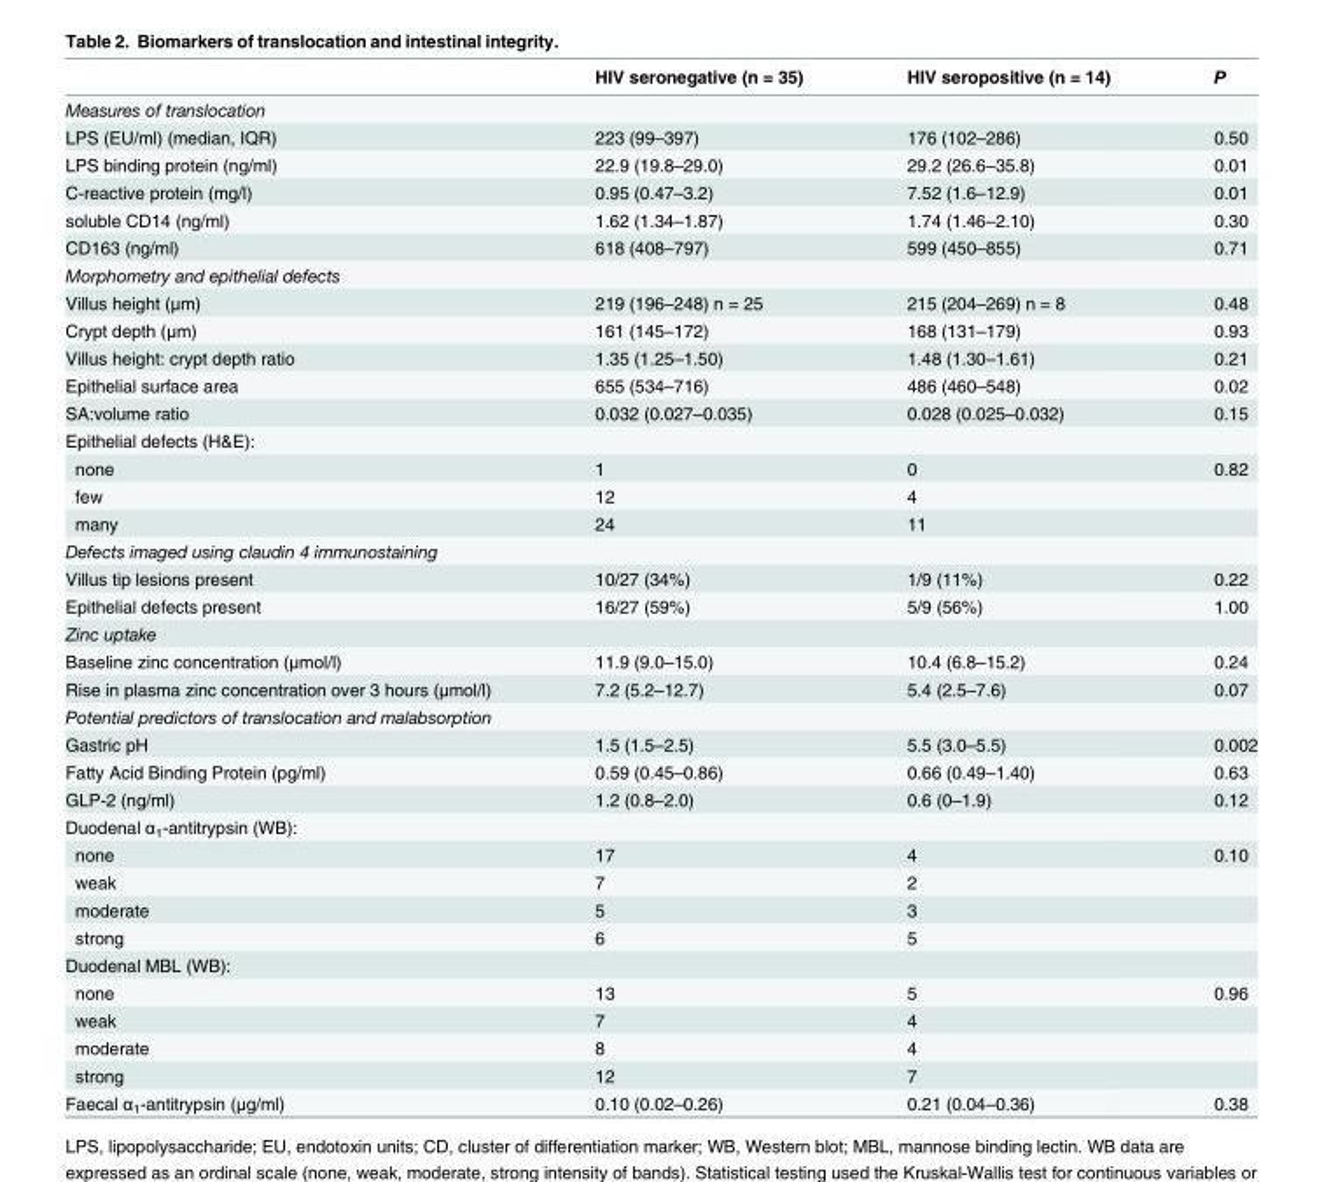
<table><thead><tr><td></td><td>HIV seronegative (n = 35)</td><td>HIV seropositive (n = 14)</td><td>P</td></tr></thead><tbody><tr><td colspan="4">Measures of translocation</td></tr><tr><td>LPS (EU/ml) (median, IQR)</td><td>223 (99–397)</td><td>176 (102–286)</td><td>0.50</td></tr><tr><td>LPS binding protein (ng/ml)</td><td>22.9 (19.8–29.0)</td><td>29.2 (26.6–35.8)</td><td>0.01</td></tr><tr><td>C-reactive protein (mg/l)</td><td>0.95 (0.47–3.2)</td><td>7.52 (1.6–12.9)</td><td>0.01</td></tr><tr><td>soluble CD14 (ng/ml)</td><td>1.62 (1.34–1.87)</td><td>1.74 (1.46–2.10)</td><td>0.30</td></tr><tr><td>CD163 (ng/ml)</td><td>618 (408–797)</td><td>599 (450–855)</td><td>0.71</td></tr><tr><td colspan="4">Morphometry and epithelial defects</td></tr><tr><td>Villus height (μm)</td><td>219 (196–248) n = 25</td><td>215 (204–269) n = 8</td><td>0.48</td></tr><tr><td>Crypt depth (μm)</td><td>161 (145–172)</td><td>168 (131–179)</td><td>0.93</td></tr><tr><td>Villus height: crypt depth ratio</td><td>1.35 (1.25–1.50)</td><td>1.48 (1.30–1.61)</td><td>0.21</td></tr><tr><td>Epithelial surface area</td><td>655 (534–716)</td><td>486 (460–548)</td><td>0.02</td></tr><tr><td>SA:volume ratio</td><td>0.032 (0.027–0.035)</td><td>0.028 (0.025–0.032)</td><td>0.15</td></tr><tr><td colspan="4">Epithelial defects (H&amp;E):</td></tr><tr><td>none</td><td>1</td><td>0</td><td>0.82</td></tr><tr><td>few</td><td>12</td><td>4</td><td></td></tr><tr><td>many</td><td>24</td><td>11</td><td></td></tr><tr><td colspan="4">Defects imaged using claudin 4 immunostaining</td></tr><tr><td>Villus tip lesions present</td><td>10/27 (34%)</td><td>1/9 (11%)</td><td>0.22</td></tr><tr><td>Epithelial defects present</td><td>16/27 (59%)</td><td>5/9 (56%)</td><td>1.00</td></tr><tr><td colspan="4">Zinc uptake</td></tr><tr><td>Baseline zinc concentration (μmol/l)</td><td>11.9 (9.0–15.0)</td><td>10.4 (6.8–15.2)</td><td>0.24</td></tr><tr><td>Rise in plasma zinc concentration over 3 hours (μmol/l)</td><td>7.2 (5.2–12.7)</td><td>5.4 (2.5–7.6)</td><td>0.07</td></tr><tr><td colspan="4">Potential predictors of translocation and malabsorption</td></tr><tr><td>Gastric pH</td><td>1.5 (1.5–2.5)</td><td>5.5 (3.0–5.5)</td><td>0.002</td></tr><tr><td>Fatty Acid Binding Protein (pg/ml)</td><td>0.59 (0.45–0.86)</td><td>0.66 (0.49–1.40)</td><td>0.63</td></tr><tr><td>GLP-2 (ng/ml)</td><td>1.2 (0.8–2.0)</td><td>0.6 (0–1.9)</td><td>0.12</td></tr><tr><td colspan="4">Duodenal α<sub>1</sub>-antitrypsin (WB):</td></tr><tr><td>none</td><td>17</td><td>4</td><td>0.10</td></tr><tr><td>weak</td><td>7</td><td>2</td><td></td></tr><tr><td>moderate</td><td>5</td><td>3</td><td></td></tr><tr><td>strong</td><td>6</td><td>5</td><td></td></tr><tr><td colspan="4">Duodenal MBL (WB):</td></tr><tr><td>none</td><td>13</td><td>5</td><td>0.96</td></tr><tr><td>weak</td><td>7</td><td>4</td><td></td></tr><tr><td>moderate</td><td>8</td><td>4</td><td></td></tr><tr><td>strong</td><td>12</td><td>7</td><td></td></tr><tr><td>Faecal α<sub>1</sub>-antitrypsin (μg/ml)</td><td>0.10 (0.02–0.26)</td><td>0.21 (0.04–0.36)</td><td>0.38</td></tr></tbody></table>